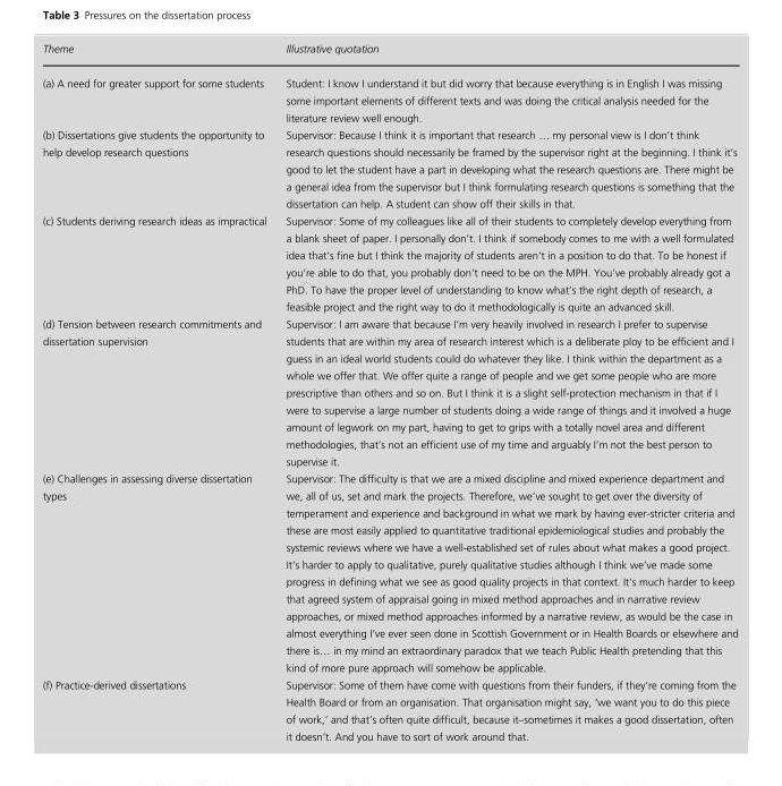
<table><thead><tr><td>Theme</td><td>Illustrative quotation</td></tr></thead><tbody><tr><td>(a) A need for greater support for some students</td><td>Student: I know I understand it but did worry that because everything is in English I was missing some important elements of different texts and was doing the critical analysis needed for the literature review well enough.</td></tr><tr><td>(b) Dissertations give students the opportunity to help develop research questions</td><td>Supervisor: Because I think it is important that research … my personal view is I don’t think research questions should necessarily be framed by the supervisor right at the beginning. I think it’s good to let the student have a part in developing what the research questions are. There might be a general idea from the supervisor but I think formulating research questions is something that the dissertation can help. A student can show off their skills in that.</td></tr><tr><td>(c) Students deriving research ideas as impractical</td><td>Supervisor: Some of my colleagues like all of their students to completely develop everything from a blank sheet of paper. I personally don’t. I think if somebody comes to me with a well formulated idea that’s fine but I think the majority of students aren’t in a position to do that. To be honest if you’re able to do that, you probably don’t need to be on the MPH. You’ve probably already got a PhD. To have the proper level of understanding to know what’s the right depth of research, a feasible project and the right way to do it methodologically is quite an advanced skill.</td></tr><tr><td>(d) Tension between research commitments and dissertation supervision</td><td>Supervisor: I am aware that because I’m very heavily involved in research I prefer to supervise students that are within my area of research interest which is a deliberate ploy to be efficient and I guess in an ideal world students could do whatever they like. I think within the department as a whole we offer that. We offer quite a range of people and we get some people who are more prescriptive than others and so on. But I think it is a slight self-protection mechanism in that if I were to supervise a large number of students doing a wide range of things and it involved a huge amount of legwork on my part, having to get to grips with a totally novel area and different methodologies, that’s not an efficient use of my time and arguably I’m not the best person to supervise it.</td></tr><tr><td>(e) Challenges in assessing diverse dissertation types</td><td>Supervisor: The difficulty is that we are a mixed discipline and mixed experience department and we, all of us, set and mark the projects. Therefore, we’ve sought to get over the diversity of temperament and experience and background in what we mark by having ever-stricter criteria and these are most easily applied to quantitative traditional epidemiological studies and probably the systemic reviews where we have a well-established set of rules about what makes a good project. It’s harder to apply to qualitative, purely qualitative studies although I think we’ve made some progress in defining what we see as good quality projects in that context. It’s much harder to keep that agreed system of appraisal going in mixed method approaches and in narrative review approaches, or mixed method approaches informed by a narrative review, as would be the case in almost everything I’ve ever seen done in Scottish Government or in Health Boards or elsewhere and there is… in my mind an extraordinary paradox that we teach Public Health pretending that this kind of more pure approach will somehow be applicable.</td></tr><tr><td>(f) Practice-derived dissertations</td><td>Supervisor: Some of them have come with questions from their funders, if they’re coming from the Health Board or from an organisation. That organisation might say, ‘we want you to do this piece of work,’ and that’s often quite difficult, because it–sometimes it makes a good dissertation, often it doesn’t. And you have to sort of work around that.</td></tr></tbody></table>